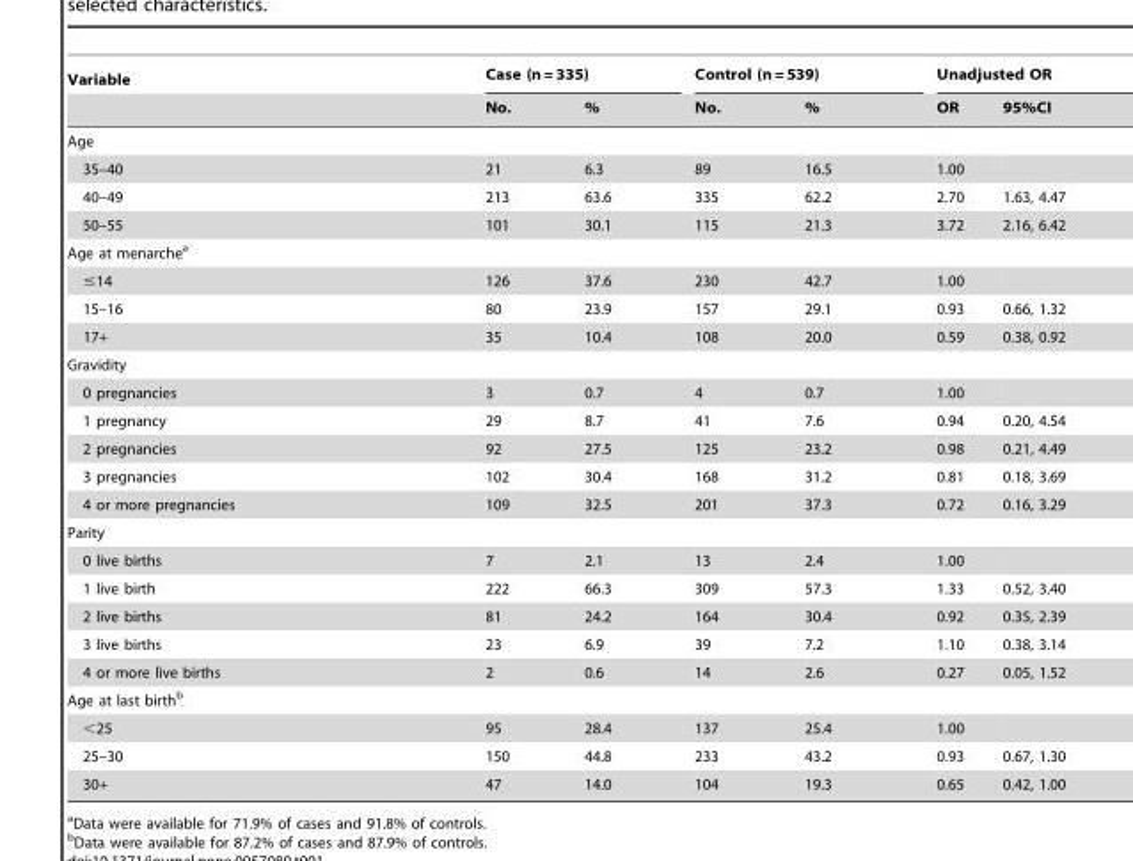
<table><thead><tr><td rowspan="2">Variable</td><td colspan="2">Case (n = 335)</td><td colspan="2">Control (n = 539)</td><td colspan="2">Unadjusted OR</td></tr><tr><td>No.</td><td>%</td><td>No.</td><td>%</td><td>OR</td><td>95%CI</td></tr></thead><tbody><tr><td colspan="7">Age</td></tr><tr><td>35–40</td><td>21</td><td>6.3</td><td>89</td><td>16.5</td><td>1.00</td><td></td></tr><tr><td>40–49</td><td>213</td><td>63.6</td><td>335</td><td>62.2</td><td>2.70</td><td>1.63, 4.47</td></tr><tr><td>50–55</td><td>101</td><td>30.1</td><td>115</td><td>21.3</td><td>3.72</td><td>2.16, 6.42</td></tr><tr><td colspan="7">Age at menarche<sup>a</sup></td></tr><tr><td>≤14</td><td>126</td><td>37.6</td><td>230</td><td>42.7</td><td>1.00</td><td></td></tr><tr><td>15–16</td><td>80</td><td>23.9</td><td>157</td><td>29.1</td><td>0.93</td><td>0.66, 1.32</td></tr><tr><td>17+</td><td>35</td><td>10.4</td><td>108</td><td>20.0</td><td>0.59</td><td>0.38, 0.92</td></tr><tr><td colspan="7">Gravidity</td></tr><tr><td>0 pregnancies</td><td>3</td><td>0.7</td><td>4</td><td>0.7</td><td>1.00</td><td></td></tr><tr><td>1 pregnancy</td><td>29</td><td>8.7</td><td>41</td><td>7.6</td><td>0.94</td><td>0.20, 4.54</td></tr><tr><td>2 pregnancies</td><td>92</td><td>27.5</td><td>125</td><td>23.2</td><td>0.98</td><td>0.21, 4.49</td></tr><tr><td>3 pregnancies</td><td>102</td><td>30.4</td><td>168</td><td>31.2</td><td>0.81</td><td>0.18, 3.69</td></tr><tr><td>4 or more pregnancies</td><td>109</td><td>32.5</td><td>201</td><td>37.3</td><td>0.72</td><td>0.16, 3.29</td></tr><tr><td colspan="7">Parity</td></tr><tr><td>0 live births</td><td>7</td><td>2.1</td><td>13</td><td>2.4</td><td>1.00</td><td></td></tr><tr><td>1 live birth</td><td>222</td><td>66.3</td><td>309</td><td>57.3</td><td>1.33</td><td>0.52, 3.40</td></tr><tr><td>2 live births</td><td>81</td><td>24.2</td><td>164</td><td>30.4</td><td>0.92</td><td>0.35, 2.39</td></tr><tr><td>3 live births</td><td>23</td><td>6.9</td><td>39</td><td>7.2</td><td>1.10</td><td>0.38, 3.14</td></tr><tr><td>4 or more live births</td><td>2</td><td>0.6</td><td>14</td><td>2.6</td><td>0.27</td><td>0.05, 1.52</td></tr><tr><td colspan="7">Age at last birth<sup>b</sup></td></tr><tr><td>&lt;25</td><td>95</td><td>28.4</td><td>137</td><td>25.4</td><td>1.00</td><td></td></tr><tr><td>25–30</td><td>150</td><td>44.8</td><td>233</td><td>43.2</td><td>0.93</td><td>0.67, 1.30</td></tr><tr><td>30+</td><td>47</td><td>14.0</td><td>104</td><td>19.3</td><td>0.65</td><td>0.42, 1.00</td></tr></tbody></table>